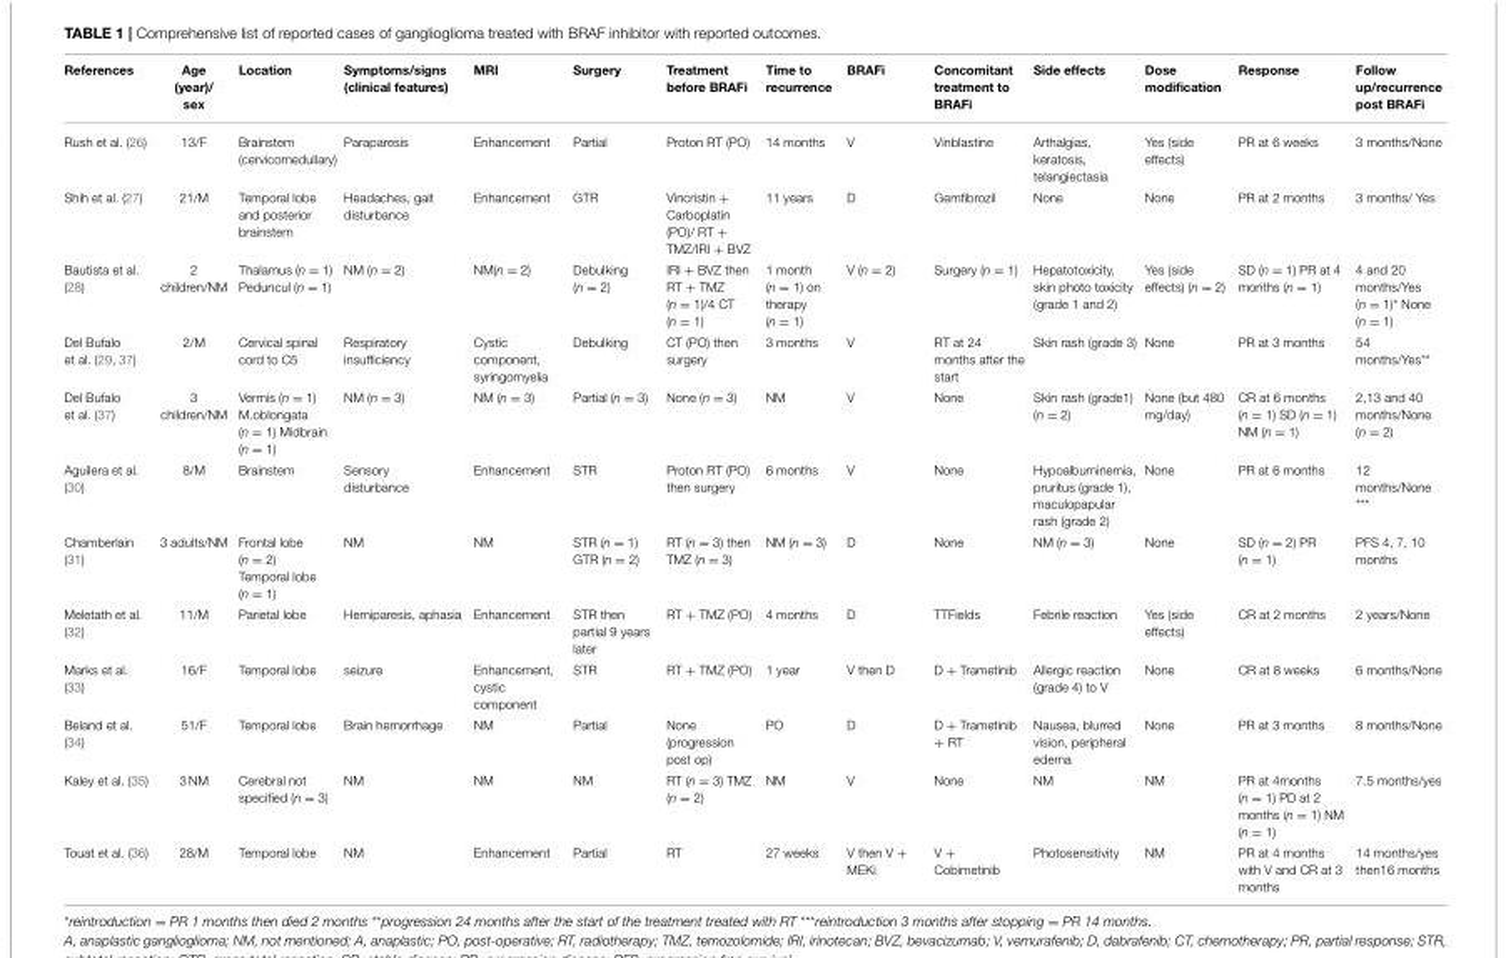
<table><thead><tr><td>References</td><td>Age (year)/ sex</td><td>Location</td><td>Symptoms/signs (clinical features)</td><td>MRI</td><td>Surgery</td><td>Treatment before BRAFi</td><td>Time to recurrence</td><td>BRAFi</td><td>Concomitant treatment to BRAFi</td><td>Side effects</td><td>Dose modification</td><td>Response</td><td>Follow up/recurrence post BRAFi</td></tr></thead><tbody><tr><td>Rush et al. (26)</td><td>13/F</td><td>Brainstem (cervicomedullary)</td><td>Paraparesis</td><td>Enhancement</td><td>Partial</td><td>Proton RT (PO)</td><td>14 months</td><td>V</td><td>Vinblastine</td><td>Arthalgias, keratosis, telangiectasia</td><td>Yes (side effects)</td><td>PR at 6 weeks</td><td>3 months/None</td></tr><tr><td>Shih et al. (27)</td><td>21/M</td><td>Temporal lobe and posterior brainstem</td><td>Headaches, gait disturbance</td><td>Enhancement</td><td>GTR</td><td>Vincristin + Carboplatin (PO)/ RT + TMZ/IRI + BVZ</td><td>11 years</td><td>D</td><td>Gemfibrozil</td><td>None</td><td>None</td><td>PR at 2 months</td><td>3 months/ Yes</td></tr><tr><td>Bautista et al. (28)</td><td>2 children/NM</td><td>Thalamus (n = 1) Peduncul (n = 1)</td><td>NM (n = 2)</td><td>NM(n = 2)</td><td>Debulking (n = 2)</td><td>IRI + BVZ then RT + TMZ (n = 1)/4 CT (n = 1)</td><td>1 month (n = 1) on therapy (n = 1)</td><td>V (n = 2)</td><td>Surgery (n = 1)</td><td>Hepatotoxicity, skin photo toxicity (grade 1 and 2)</td><td>Yes (side effects) (n = 2)</td><td>SD (n = 1) PR at 4 months (n = 1)</td><td>4 and 20 months/Yes (n = 1)* None (n = 1)</td></tr><tr><td>Del Bufalo et al. (29, 37)</td><td>2/M</td><td>Cervical spinal cord to C5</td><td>Respiratory insufficiency</td><td>Cystic component, syringomyelia</td><td>Debulking</td><td>CT (PO) then surgery</td><td>3 months</td><td>V</td><td>RT at 24 months after the start</td><td>Skin rash (grade 3)</td><td>None</td><td>PR at 3 months</td><td>54 months/Yes**</td></tr><tr><td>Del Bufalo et al. (37)</td><td>3 children/NM</td><td>Vermis (n = 1) M.oblongata (n = 1) Midbrain (n = 1)</td><td>NM (n = 3)</td><td>NM (n = 3)</td><td>Partial (n = 3)</td><td>None (n = 3)</td><td>NM</td><td>V</td><td>None</td><td>Skin rash (grade1) (n = 2)</td><td>None (but 480 mg/day)</td><td>CR at 6 months (n = 1) SD (n = 1) NM (n = 1)</td><td>2,13 and 40 months/None (n = 2)</td></tr><tr><td>Aguilera et al. (30)</td><td>8/M</td><td>Brainstem</td><td>Sensory disturbance</td><td>Enhancement</td><td>STR</td><td>Proton RT (PO) then surgery</td><td>6 months</td><td>V</td><td>None</td><td>Hypoalbuminemia, pruritus (grade 1), maculopapular rash (grade 2)</td><td>None</td><td>PR at 6 months</td><td>12 months/None ***</td></tr><tr><td>Chamberlain (31)</td><td>3 adults/NM</td><td>Frontal lobe (n = 2) Temporal lobe (n = 1)</td><td>NM</td><td>NM</td><td>STR (n = 1) GTR (n = 2)</td><td>RT (n = 3) then TMZ (n = 3)</td><td>NM (n = 3)</td><td>D</td><td>None</td><td>NM (n = 3)</td><td>None</td><td>SD (n = 2) PR (n = 1)</td><td>PFS 4, 7, 10 months</td></tr><tr><td>Meletath et al. (32)</td><td>11/M</td><td>Parietal lobe</td><td>Hemiparesis, aphasia</td><td>Enhancement</td><td>STR then partial 9 years later</td><td>RT + TMZ (PO)</td><td>4 months</td><td>D</td><td>TTFields</td><td>Febrile reaction</td><td>Yes (side effects)</td><td>CR at 2 months</td><td>2 years/None</td></tr><tr><td>Marks et al. (33)</td><td>16/F</td><td>Temporal lobe</td><td>seizure</td><td>Enhancement, cystic component</td><td>STR</td><td>RT + TMZ (PO)</td><td>1 year</td><td>V then D</td><td>D + Trametinib</td><td>Allergic reaction (grade 4) to V</td><td>None</td><td>CR at 8 weeks</td><td>6 months/None</td></tr><tr><td>Beland et al. (34)</td><td>51/F</td><td>Temporal lobe</td><td>Brain hemorrhage</td><td>NM</td><td>Partial</td><td>None (progression post op)</td><td>PO</td><td>D</td><td>D + Trametinib + RT</td><td>Nausea, blurred vision, peripheral edema</td><td>None</td><td>PR at 3 months</td><td>8 months/None</td></tr><tr><td>Kaley et al. (35)</td><td>3 NM</td><td>Cerebral not specified (n = 3)</td><td>NM</td><td>NM</td><td>NM</td><td>RT (n = 3) TMZ (n = 2)</td><td>NM</td><td>V</td><td>None</td><td>NM</td><td>NM</td><td>PR at 4months (n = 1) PD at 2 months (n = 1) NM (n = 1)</td><td>7.5 months/yes</td></tr><tr><td>Touat et al. (36)</td><td>28/M</td><td>Temporal lobe</td><td>NM</td><td>Enhancement</td><td>Partial</td><td>RT</td><td>27 weeks</td><td>V then V + MEKi</td><td>V + Cobimetinib</td><td>Photosensitivity</td><td>NM</td><td>PR at 4 months with V and CR at 3 months</td><td>14 months/yes then16 months</td></tr></tbody></table>